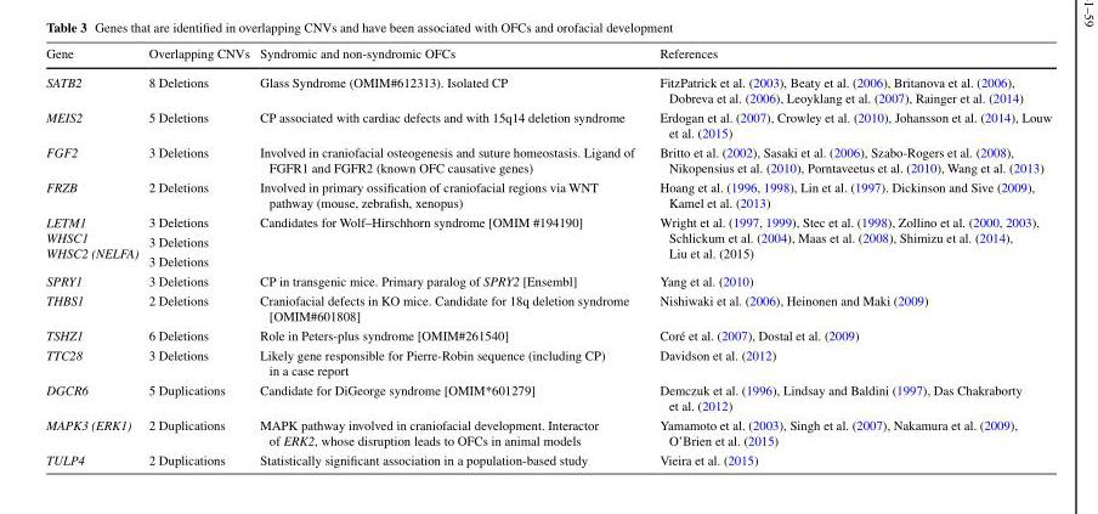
<table><thead><tr><td>Gene</td><td>Overlapping CNVs</td><td>Syndromic and non-syndromic OFCs</td><td>References</td></tr></thead><tbody><tr><td>SATB2</td><td>8 Deletions</td><td>Glass Syndrome (OMIM#612313). Isolated CP</td><td>FitzPatrick et al. (2003), Beaty et al. (2006), Britanova et al. (2006), Dobreva et al. (2006), Leoyklang et al. (2007), Rainger et al. (2014)</td></tr><tr><td>MEIS2</td><td>5 Deletions</td><td>CP associated with cardiac defects and with 15q14 deletion syndrome</td><td>Erdogan et al. (2007), Crowley et al. (2010), Johansson et al. (2014), Louw et al. (2015)</td></tr><tr><td>FGF2</td><td>3 Deletions</td><td>Involved in craniofacial osteogenesis and suture homeostasis. Ligand of FGFR1 and FGFR2 (known OFC causative genes)</td><td>Britto et al. (2002), Sasaki et al. (2006), Szabo-Rogers et al. (2008), Nikopensius et al. (2010), Porntaveetus et al. (2010), Wang et al. (2013)</td></tr><tr><td>FRZB</td><td>2 Deletions</td><td>Involved in primary ossification of craniofacial regions via WNT pathway (mouse, zebrafish, xenopus)</td><td>Hoang et al. (1996, 1998), Lin et al. (1997). Dickinson and Sive (2009), Kamel et al. (2013)</td></tr><tr><td rowspan="3">LETM1 WHSC1 WHSC2 (NELFA)</td><td>3 Deletions</td><td rowspan="3">Candidates for Wolf–Hirschhorn syndrome [OMIM #194190]</td><td rowspan="3">Wright et al. (1997, 1999), Stec et al. (1998), Zollino et al. (2000, 2003), Schlickum et al. (2004), Maas et al. (2008), Shimizu et al. (2014), Liu et al. (2015)</td></tr><tr><td>3 Deletions</td></tr><tr><td>3 Deletions</td></tr><tr><td>SPRY1</td><td>3 Deletions</td><td>CP in transgenic mice. Primary paralog of SPRY2 [Ensembl]</td><td>Yang et al. (2010)</td></tr><tr><td>THBS1</td><td>2 Deletions</td><td>Craniofacial defects in KO mice. Candidate for 18q deletion syndrome [OMIM#601808]</td><td>Nishiwaki et al. (2006), Heinonen and Maki (2009)</td></tr><tr><td>TSHZ1</td><td>6 Deletions</td><td>Role in Peters-plus syndrome [OMIM#261540]</td><td>Coré et al. (2007), Dostal et al. (2009)</td></tr><tr><td>TTC28</td><td>3 Deletions</td><td>Likely gene responsible for Pierre-Robin sequence (including CP) in a case report</td><td>Davidson et al. (2012)</td></tr><tr><td>DGCR6</td><td>5 Duplications</td><td>Candidate for DiGeorge syndrome [OMIM*601279]</td><td>Demczuk et al. (1996), Lindsay and Baldini (1997), Das Chakraborty et al. (2012)</td></tr><tr><td>MAPK3 (ERK1)</td><td>2 Duplications</td><td>MAPK pathway involved in craniofacial development. Interactor of ERK2, whose disruption leads to OFCs in animal models</td><td>Yamamoto et al. (2003), Singh et al. (2007), Nakamura et al. (2009), O’Brien et al. (2015)</td></tr><tr><td>TULP4</td><td>2 Duplications</td><td>Statistically significant association in a population-based study</td><td>Vieira et al. (2015)</td></tr></tbody></table>